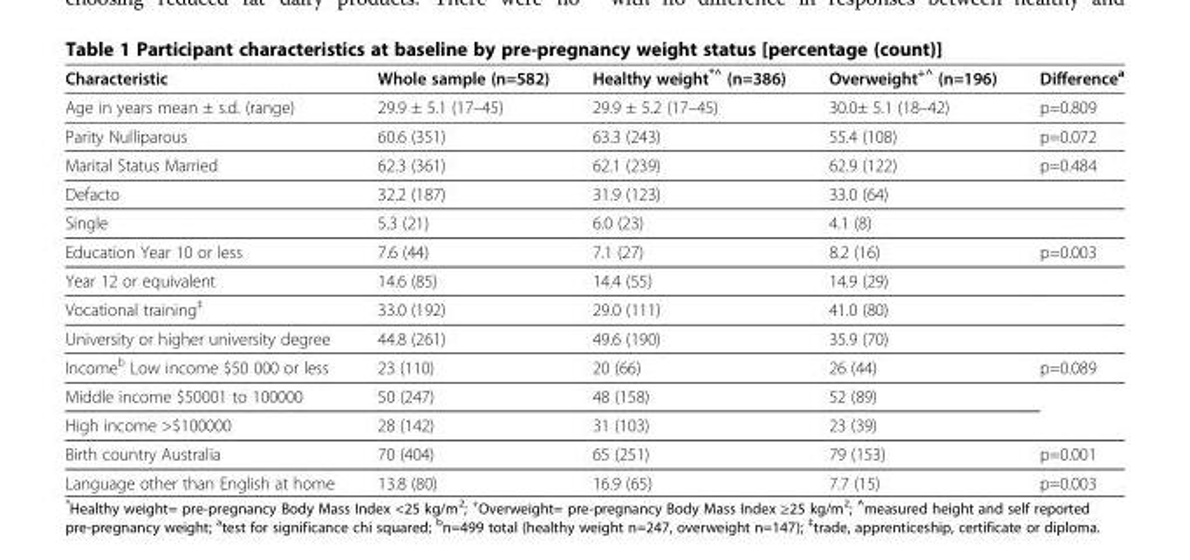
<table><thead><tr><td>Characteristic</td><td>Whole sample (n=582)</td><td>Healthy weight<sup>*^</sup> (n=386)</td><td>Overweight<sup>+^</sup> (n=196)</td><td>Difference<sup>a</sup></td></tr></thead><tbody><tr><td>Age in years mean ± s.d. (range)</td><td>29.9 ± 5.1 (17–45)</td><td>29.9 ± 5.2 (17–45)</td><td>30.0± 5.1 (18–42)</td><td>p=0.809</td></tr><tr><td>Parity Nulliparous</td><td>60.6 (351)</td><td>63.3 (243)</td><td>55.4 (108)</td><td>p=0.072</td></tr><tr><td>Marital Status Married</td><td>62.3 (361)</td><td>62.1 (239)</td><td>62.9 (122)</td><td>p=0.484</td></tr><tr><td>Defacto</td><td>32.2 (187)</td><td>31.9 (123)</td><td>33.0 (64)</td><td></td></tr><tr><td>Single</td><td>5.3 (21)</td><td>6.0 (23)</td><td>4.1 (8)</td><td></td></tr><tr><td>Education Year 10 or less</td><td>7.6 (44)</td><td>7.1 (27)</td><td>8.2 (16)</td><td>p=0.003</td></tr><tr><td>Year 12 or equivalent</td><td>14.6 (85)</td><td>14.4 (55)</td><td>14.9 (29)</td><td></td></tr><tr><td>Vocational training<sup>‡</sup></td><td>33.0 (192)</td><td>29.0 (111)</td><td>41.0 (80)</td><td></td></tr><tr><td>University or higher university degree</td><td>44.8 (261)</td><td>49.6 (190)</td><td>35.9 (70)</td><td></td></tr><tr><td>Income<sup>b</sup> Low income $50 000 or less</td><td>23 (110)</td><td>20 (66)</td><td>26 (44)</td><td>p=0.089</td></tr><tr><td>Middle income $50001 to 100000</td><td>50 (247)</td><td>48 (158)</td><td>52 (89)</td><td rowspan="2"></td></tr><tr><td>High income &gt;$100000</td><td>28 (142)</td><td>31 (103)</td><td>23 (39)</td></tr><tr><td>Birth country Australia</td><td>70 (404)</td><td>65 (251)</td><td>79 (153)</td><td>p=0.001</td></tr><tr><td>Language other than English at home</td><td>13.8 (80)</td><td>16.9 (65)</td><td>7.7 (15)</td><td>p=0.003</td></tr></tbody></table>